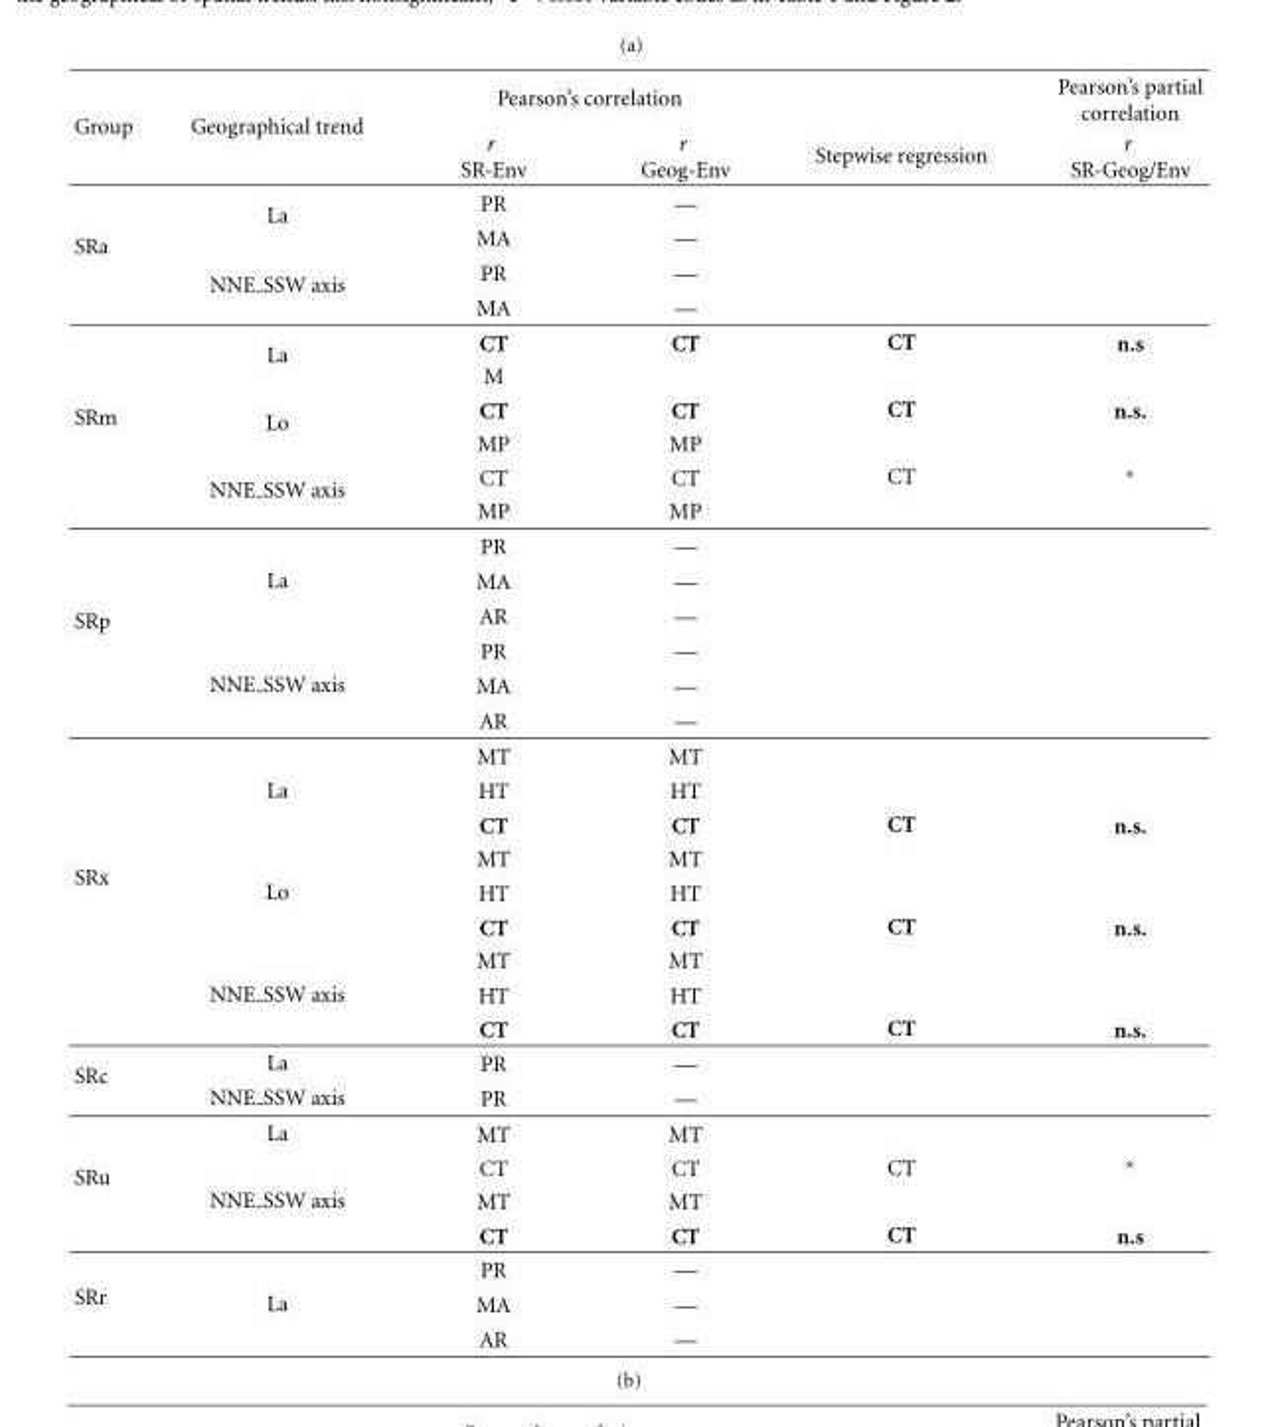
<table><thead><tr><td rowspan="2">Group</td><td rowspan="2">Geographical trend</td><td colspan="2">Pearson’s correlation</td><td rowspan="2">Stepwise regression</td><td rowspan="2">Pearson’s partial correlation r SR-Geog/Env</td></tr><tr><td>r SR-Env</td><td>r Geog-Env</td></tr></thead><tbody><tr><td rowspan="4">SRa</td><td rowspan="2">La</td><td>PR</td><td>—</td><td></td><td></td></tr><tr><td>MA</td><td>—</td><td></td><td></td></tr><tr><td rowspan="2">NNE SSW axis</td><td>PR</td><td>—</td><td></td><td></td></tr><tr><td>MA</td><td>—</td><td></td><td></td></tr><tr><td rowspan="6">SRm</td><td rowspan="2">La</td><td>CT</td><td>CT</td><td>CT</td><td>n.s</td></tr><tr><td>M</td><td></td><td></td><td></td></tr><tr><td rowspan="2">Lo</td><td>CT</td><td>CT</td><td>CT</td><td>n.s.</td></tr><tr><td>MP</td><td>MP</td><td></td><td></td></tr><tr><td rowspan="2">NNE SSW axis</td><td>CT</td><td>CT</td><td>CT</td><td>∗</td></tr><tr><td>MP</td><td>MP</td><td></td><td></td></tr><tr><td rowspan="6">SRp</td><td></td><td>PR</td><td>—</td><td></td><td></td></tr><tr><td>La</td><td>MA</td><td>—</td><td></td><td></td></tr><tr><td></td><td>AR</td><td>—</td><td></td><td></td></tr><tr><td></td><td>PR</td><td>—</td><td></td><td></td></tr><tr><td>NNE SSW axis</td><td>MA</td><td>—</td><td></td><td></td></tr><tr><td></td><td>AR</td><td>—</td><td></td><td></td></tr><tr><td rowspan="9">SRx</td><td></td><td>MT</td><td>MT</td><td></td><td></td></tr><tr><td>La</td><td>HT</td><td>HT</td><td></td><td></td></tr><tr><td></td><td>CT</td><td>CT</td><td>CT</td><td>n.s.</td></tr><tr><td></td><td>MT</td><td>MT</td><td></td><td></td></tr><tr><td>Lo</td><td>HT</td><td>HT</td><td></td><td></td></tr><tr><td></td><td>CT</td><td>CT</td><td>CT</td><td>n.s.</td></tr><tr><td></td><td>MT</td><td>MT</td><td></td><td></td></tr><tr><td>NNE SSW axis</td><td>HT</td><td>HT</td><td></td><td></td></tr><tr><td></td><td>CT</td><td>CT</td><td>CT</td><td>n.s.</td></tr><tr><td rowspan="2">SRc</td><td>La</td><td>PR</td><td>—</td><td></td><td></td></tr><tr><td>NNE SSW axis</td><td>PR</td><td>—</td><td></td><td></td></tr><tr><td rowspan="4">SRu</td><td>La</td><td>MT</td><td>MT</td><td></td><td></td></tr><tr><td></td><td>CT</td><td>CT</td><td>CT</td><td>∗</td></tr><tr><td>NNE SSW axis</td><td>MT</td><td>MT</td><td></td><td></td></tr><tr><td></td><td>CT</td><td>CT</td><td>CT</td><td>n.s</td></tr><tr><td rowspan="3">SRr</td><td></td><td>PR</td><td>—</td><td></td><td></td></tr><tr><td>La</td><td>MA</td><td>—</td><td></td><td></td></tr><tr><td></td><td>AR</td><td>—</td><td></td><td></td></tr></tbody></table>